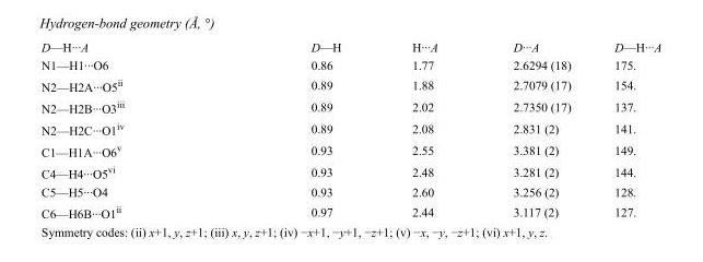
<table><tbody><tr><td>D—H···A</td><td>D—H</td><td>H···A</td><td>D···A</td><td>D—H···A</td></tr><tr><td>N1—H1···O6</td><td>0.86</td><td>1.77</td><td>2.6294 (18)</td><td>175.</td></tr><tr><td>N2—H2A···O5<sup>ii</sup></td><td>0.89</td><td>1.88</td><td>2.7079 (17)</td><td>154.</td></tr><tr><td>N2—H2B···O3<sup>iii</sup></td><td>0.89</td><td>2.02</td><td>2.7350 (17)</td><td>137.</td></tr><tr><td>N2—H2C···O1<sup>iv</sup></td><td>0.89</td><td>2.08</td><td>2.831 (2)</td><td>141.</td></tr><tr><td>C1—H1A···O6<sup>v</sup></td><td>0.93</td><td>2.55</td><td>3.381 (2)</td><td>149.</td></tr><tr><td>C4—H4···O5<sup>vi</sup></td><td>0.93</td><td>2.48</td><td>3.281 (2)</td><td>144.</td></tr><tr><td>C5—H5···O4</td><td>0.93</td><td>2.60</td><td>3.256 (2)</td><td>128.</td></tr><tr><td>C6—H6B···O1<sup>ii</sup></td><td>0.97</td><td>2.44</td><td>3.117 (2)</td><td>127.</td></tr></tbody></table>